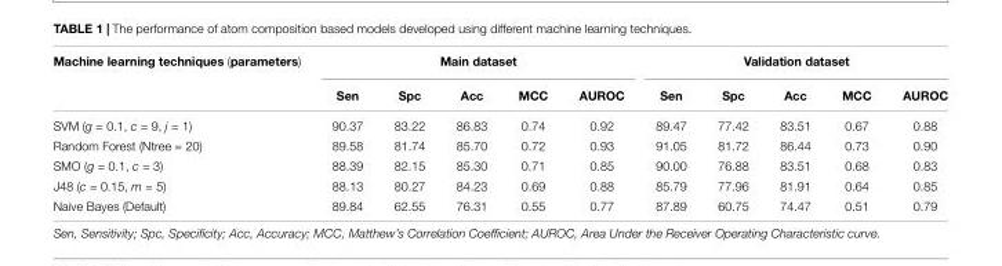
<table><thead><tr><td rowspan="2">Machine learning techniques (parameters)</td><td colspan="5">Main dataset</td><td colspan="5">Validation dataset</td></tr><tr><td>Sen</td><td>Spc</td><td>Acc</td><td>MCC</td><td>AUROC</td><td>Sen</td><td>Spc</td><td>Acc</td><td>MCC</td><td>AUROC</td></tr></thead><tbody><tr><td>SVM (g = 0.1, c = 9, j = 1)</td><td>90.37</td><td>83.22</td><td>86.83</td><td>0.74</td><td>0.92</td><td>89.47</td><td>77.42</td><td>83.51</td><td>0.67</td><td>0.88</td></tr><tr><td>Random Forest (Ntree = 20)</td><td>89.58</td><td>81.74</td><td>85.70</td><td>0.72</td><td>0.93</td><td>91.05</td><td>81.72</td><td>86.44</td><td>0.73</td><td>0.90</td></tr><tr><td>SMO (g = 0.1, c = 3)</td><td>88.39</td><td>82.15</td><td>85.30</td><td>0.71</td><td>0.85</td><td>90.00</td><td>76.88</td><td>83.51</td><td>0.68</td><td>0.83</td></tr><tr><td>J48 (c = 0.15, m = 5)</td><td>88.13</td><td>80.27</td><td>84.23</td><td>0.69</td><td>0.88</td><td>85.79</td><td>77.96</td><td>81.91</td><td>0.64</td><td>0.85</td></tr><tr><td>Naive Bayes (Default)</td><td>89.84</td><td>62.55</td><td>76.31</td><td>0.55</td><td>0.77</td><td>87.89</td><td>60.75</td><td>74.47</td><td>0.51</td><td>0.79</td></tr></tbody></table>